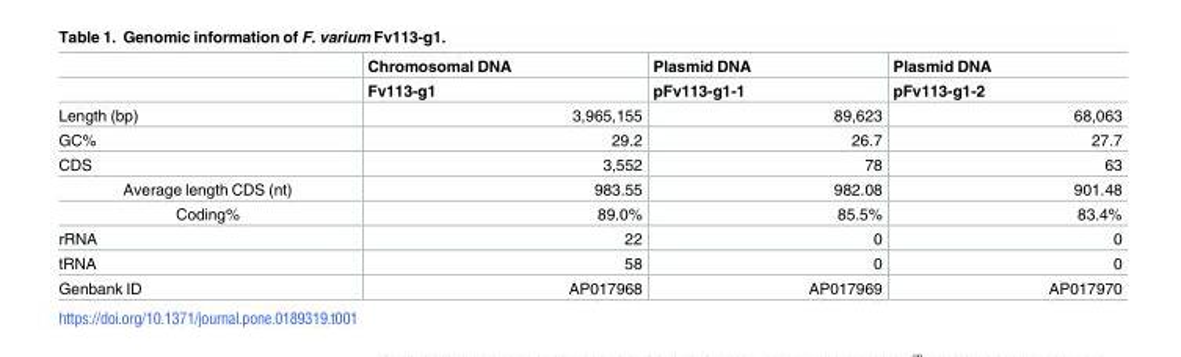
<table><thead><tr><td rowspan="2"></td><td rowspan="2">Chromosomal DNA Fv113-g1</td><td rowspan="2">Plasmid DNA pFv113-g1-1</td><td rowspan="2">Plasmid DNA pFv113-g1-2</td></tr><tr></tr></thead><tbody><tr><td>Length (bp)</td><td>3,965,155</td><td>89,623</td><td>68,063</td></tr><tr><td>GC%</td><td>29.2</td><td>26.7</td><td>27.7</td></tr><tr><td>CDS</td><td>3,552</td><td>78</td><td>63</td></tr><tr><td>Average length CDS (nt)</td><td>983.55</td><td>982.08</td><td>901.48</td></tr><tr><td>Coding%</td><td>89.0%</td><td>85.5%</td><td>83.4%</td></tr><tr><td>rRNA</td><td>22</td><td>0</td><td>0</td></tr><tr><td>tRNA</td><td>58</td><td>0</td><td>0</td></tr><tr><td>Genbank ID</td><td>AP017968</td><td>AP017969</td><td>AP017970</td></tr></tbody></table>